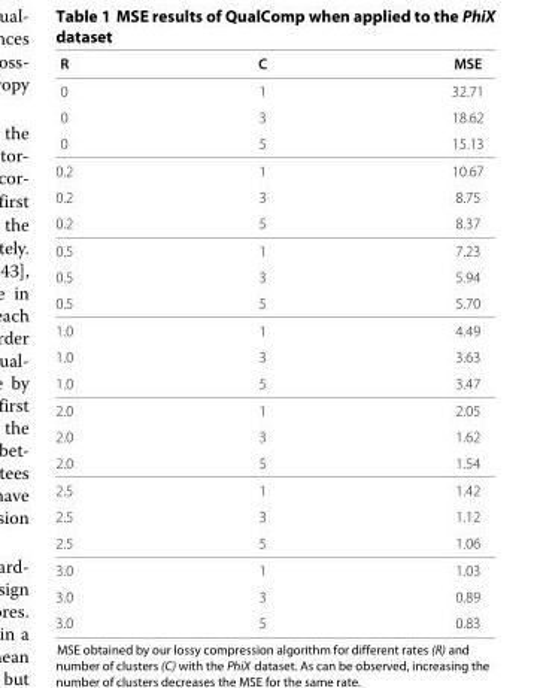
<table><thead><tr><td>R</td><td>C</td><td>MSE</td></tr></thead><tbody><tr><td>0</td><td>1</td><td>32.71</td></tr><tr><td>0</td><td>3</td><td>18.62</td></tr><tr><td>0</td><td>5</td><td>15.13</td></tr><tr><td>0.2</td><td>1</td><td>10.67</td></tr><tr><td>0.2</td><td>3</td><td>8.75</td></tr><tr><td>0.2</td><td>5</td><td>8.37</td></tr><tr><td>0.5</td><td>1</td><td>7.23</td></tr><tr><td>0.5</td><td>3</td><td>5.94</td></tr><tr><td>0.5</td><td>5</td><td>5.70</td></tr><tr><td>1.0</td><td>1</td><td>4.49</td></tr><tr><td>1.0</td><td>3</td><td>3.63</td></tr><tr><td>1.0</td><td>5</td><td>3.47</td></tr><tr><td>2.0</td><td>1</td><td>2.05</td></tr><tr><td>2.0</td><td>3</td><td>1.62</td></tr><tr><td>2.0</td><td>5</td><td>1.54</td></tr><tr><td>2.5</td><td>1</td><td>1.42</td></tr><tr><td>2.5</td><td>3</td><td>1.12</td></tr><tr><td>2.5</td><td>5</td><td>1.06</td></tr><tr><td>3.0</td><td>1</td><td>1.03</td></tr><tr><td>3.0</td><td>3</td><td>0.89</td></tr><tr><td>3.0</td><td>5</td><td>0.83</td></tr></tbody></table>